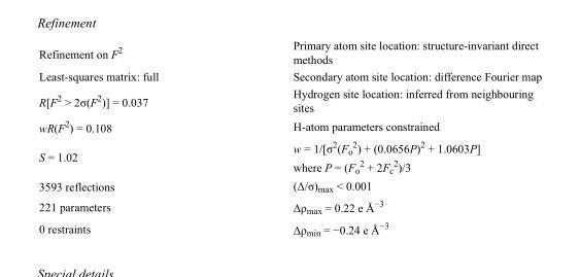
<table><tbody><tr><td>Refinement on F<sup>2</sup></td><td>Primary atom site location: structure-invariant direct methods</td></tr><tr><td>Least-squares matrix: full</td><td>Secondary atom site location: difference Fourier map</td></tr><tr><td>R[F<sup>2</sup> &gt; 2σ(F<sup>2</sup>)] = 0.037</td><td>Hydrogen site location: inferred from neighbouring sites</td></tr><tr><td>wR(F<sup>2</sup>) = 0.108</td><td>H-atom parameters constrained</td></tr><tr><td>S = 1.02</td><td>w = 1/[σ<sup>2</sup>(F<sub>o</sub> <sup>2</sup>) + (0.0656P)<sup>2</sup> + 1.0603P] where P = (F<sub>o</sub> <sup>2</sup> + 2F<sub>c</sub> <sup>2</sup>)/3</td></tr><tr><td>3593 reflections</td><td>(Δ/σ)<sub>max</sub> &lt; 0.001</td></tr><tr><td>221 parameters</td><td>Δρ<sub>max</sub> = 0.22 e Å<sup>−3</sup></td></tr><tr><td>0 restraints</td><td>Δρ<sub>min</sub> = −0.24 e Å<sup>−3</sup></td></tr></tbody></table>